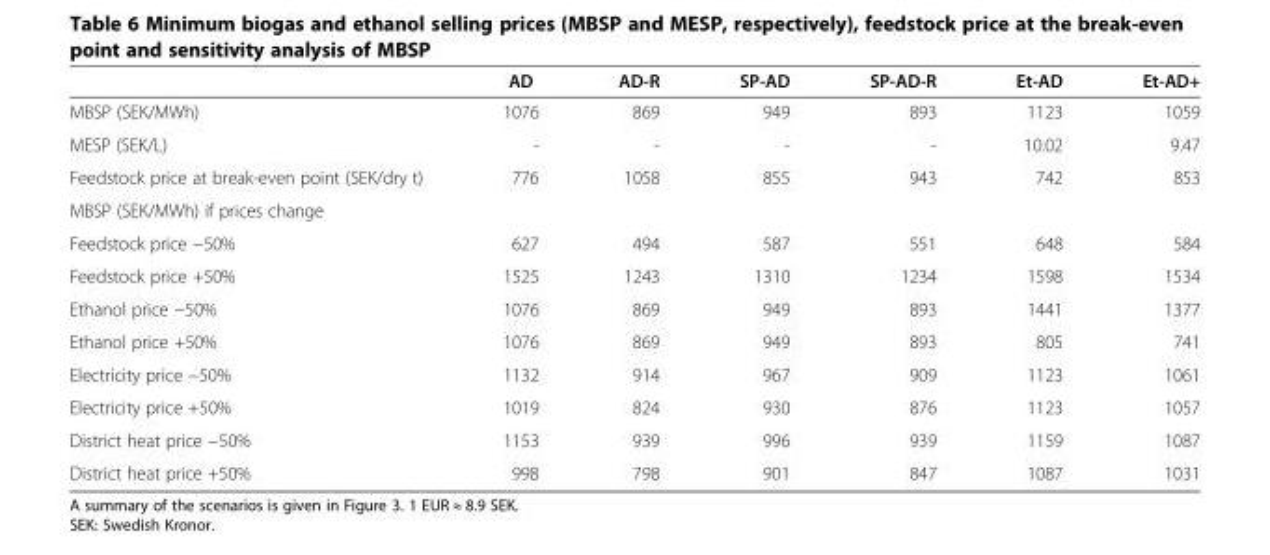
<table><thead><tr><td></td><td>AD</td><td>AD-R</td><td>SP-AD</td><td>SP-AD-R</td><td>Et-AD</td><td>Et-AD+</td></tr></thead><tbody><tr><td>MBSP (SEK/MWh)</td><td>1076</td><td>869</td><td>949</td><td>893</td><td>1123</td><td>1059</td></tr><tr><td>MESP (SEK/L)</td><td>-</td><td>-</td><td>-</td><td>-</td><td>10.02</td><td>9.47</td></tr><tr><td>Feedstock price at break-even point (SEK/dry t)</td><td>776</td><td>1058</td><td>855</td><td>943</td><td>742</td><td>853</td></tr><tr><td colspan="7">MBSP (SEK/MWh) if prices change</td></tr><tr><td>Feedstock price −50%</td><td>627</td><td>494</td><td>587</td><td>551</td><td>648</td><td>584</td></tr><tr><td>Feedstock price +50%</td><td>1525</td><td>1243</td><td>1310</td><td>1234</td><td>1598</td><td>1534</td></tr><tr><td>Ethanol price −50%</td><td>1076</td><td>869</td><td>949</td><td>893</td><td>1441</td><td>1377</td></tr><tr><td>Ethanol price +50%</td><td>1076</td><td>869</td><td>949</td><td>893</td><td>805</td><td>741</td></tr><tr><td>Electricity price −50%</td><td>1132</td><td>914</td><td>967</td><td>909</td><td>1123</td><td>1061</td></tr><tr><td>Electricity price +50%</td><td>1019</td><td>824</td><td>930</td><td>876</td><td>1123</td><td>1057</td></tr><tr><td>District heat price −50%</td><td>1153</td><td>939</td><td>996</td><td>939</td><td>1159</td><td>1087</td></tr><tr><td>District heat price +50%</td><td>998</td><td>798</td><td>901</td><td>847</td><td>1087</td><td>1031</td></tr></tbody></table>